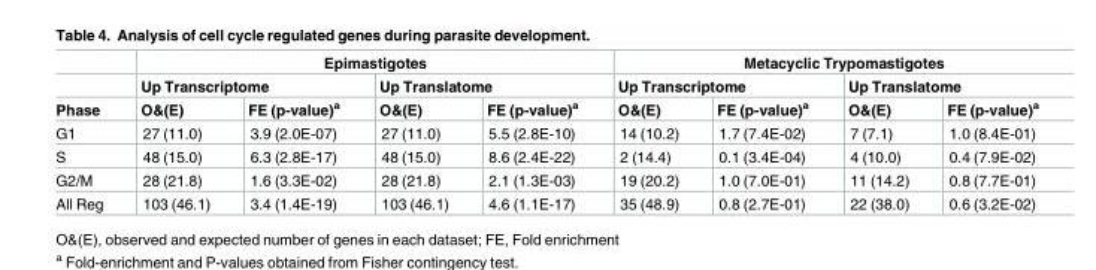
<table><thead><tr><td rowspan="3">Phase</td><td colspan="4">Epimastigotes</td><td colspan="4">Metacyclic Trypomastigotes</td></tr><tr><td colspan="2">Up Transcriptome</td><td colspan="2">Up Translatome</td><td colspan="2">Up Transcriptome</td><td colspan="2">Up Translatome</td></tr><tr><td>O&amp;(E)</td><td>FE (p-value)<sup>a</sup></td><td>O&amp;(E)</td><td>FE (p-value)<sup>a</sup></td><td>O&amp;(E)</td><td>FE (p-value)<sup>a</sup></td><td>O&amp;(E)</td><td>FE (p-value)<sup>a</sup></td></tr></thead><tbody><tr><td>G1</td><td>27 (11.0)</td><td>3.9 (2.0E-07)</td><td>27 (11.0)</td><td>5.5 (2.8E-10)</td><td>14 (10.2)</td><td>1.7 (7.4E-02)</td><td>7 (7.1)</td><td>1.0 (8.4E-01)</td></tr><tr><td>S</td><td>48 (15.0)</td><td>6.3 (2.8E-17)</td><td>48 (15.0)</td><td>8.6 (2.4E-22)</td><td>2 (14.4)</td><td>0.1 (3.4E-04)</td><td>4 (10.0)</td><td>0.4 (7.9E-02)</td></tr><tr><td>G2/M</td><td>28 (21.8)</td><td>1.6 (3.3E-02)</td><td>28 (21.8)</td><td>2.1 (1.3E-03)</td><td>19 (20.2)</td><td>1.0 (7.0E-01)</td><td>11 (14.2)</td><td>0.8 (7.7E-01)</td></tr><tr><td>All Reg</td><td>103 (46.1)</td><td>3.4 (1.4E-19)</td><td>103 (46.1)</td><td>4.6 (1.1E-17)</td><td>35 (48.9)</td><td>0.8 (2.7E-01)</td><td>22 (38.0)</td><td>0.6 (3.2E-02)</td></tr></tbody></table>